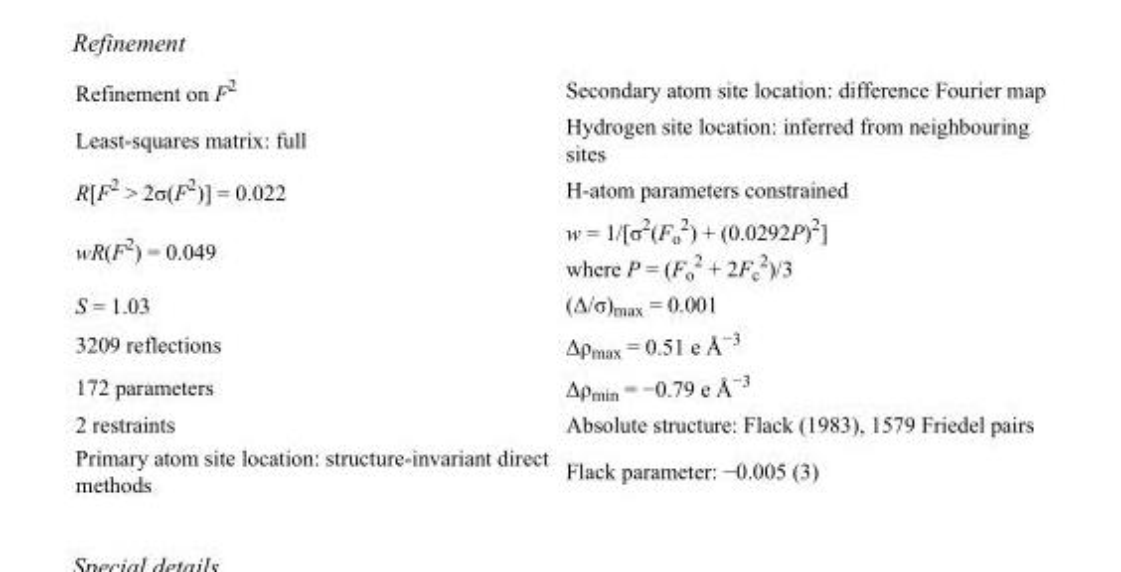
<table><tbody><tr><td>Refinement on F<sup>2</sup></td><td>Secondary atom site location: difference Fourier map</td></tr><tr><td>Least-squares matrix: full</td><td>Hydrogen site location: inferred from neighbouring sites</td></tr><tr><td>R[F<sup>2</sup> &gt; 2σ(F<sup>2</sup>)] = 0.022</td><td>H-atom parameters constrained</td></tr><tr><td>wR(F<sup>2</sup>) = 0.049</td><td>w = 1/[σ<sup>2</sup>(F<sub>o</sub> <sup>2</sup>) + (0.0292P)<sup>2</sup>] where P = (F<sub>o</sub> <sup>2</sup> + 2F<sub>c</sub> <sup>2</sup>)/3</td></tr><tr><td>S = 1.03</td><td>(Δ/σ)<sub>max</sub> = 0.001</td></tr><tr><td>3209 reflections</td><td>Δρ<sub>max</sub> = 0.51 e Å<sup>−3</sup></td></tr><tr><td>172 parameters</td><td>Δρ<sub>min</sub> = −0.79 e Å<sup>−3</sup></td></tr><tr><td>2 restraints</td><td>Absolute structure: Flack (1983), 1579 Friedel pairs</td></tr><tr><td>Primary atom site location: structure-invariant direct methods</td><td>Flack parameter: −0.005 (3)</td></tr></tbody></table>